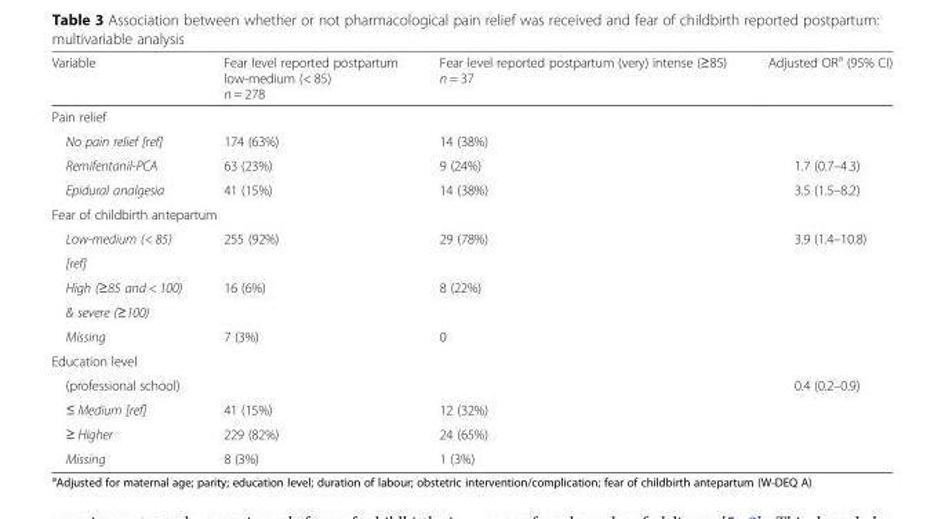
<table><thead><tr><td>Variable</td><td>Fear level reported postpartum low-medium (&lt; 85) n = 278</td><td>Fear level reported postpartum (very) intense (≥85) n = 37</td><td>Adjusted OR<sup>a</sup> (95% CI)</td></tr></thead><tbody><tr><td colspan="4">Pain relief</td></tr><tr><td>No pain relief [ref]</td><td>174 (63%)</td><td>14 (38%)</td><td></td></tr><tr><td>Remifentanil-PCA</td><td>63 (23%)</td><td>9 (24%)</td><td>1.7 (0.7–4.3)</td></tr><tr><td>Epidural analgesia</td><td>41 (15%)</td><td>14 (38%)</td><td>3.5 (1.5–8.2)</td></tr><tr><td colspan="4">Fear of childbirth antepartum</td></tr><tr><td>Low-medium (&lt; 85)</td><td>255 (92%)</td><td>29 (78%)</td><td>3.9 (1.4–10.8)</td></tr><tr><td colspan="4">[ref]</td></tr><tr><td>High (≥85 and &lt; 100)</td><td>16 (6%)</td><td>8 (22%)</td><td></td></tr><tr><td colspan="4">&amp; severe (≥100)</td></tr><tr><td>Missing</td><td>7 (3%)</td><td>0</td><td></td></tr><tr><td colspan="4">Education level</td></tr><tr><td>(professional school)</td><td></td><td></td><td>0.4 (0.2–0.9)</td></tr><tr><td>≤ Medium [ref]</td><td>41 (15%)</td><td>12 (32%)</td><td rowspan="3"></td></tr><tr><td>≥ Higher</td><td>229 (82%)</td><td>24 (65%)</td></tr><tr><td>Missing</td><td>8 (3%)</td><td>1 (3%)</td></tr></tbody></table>